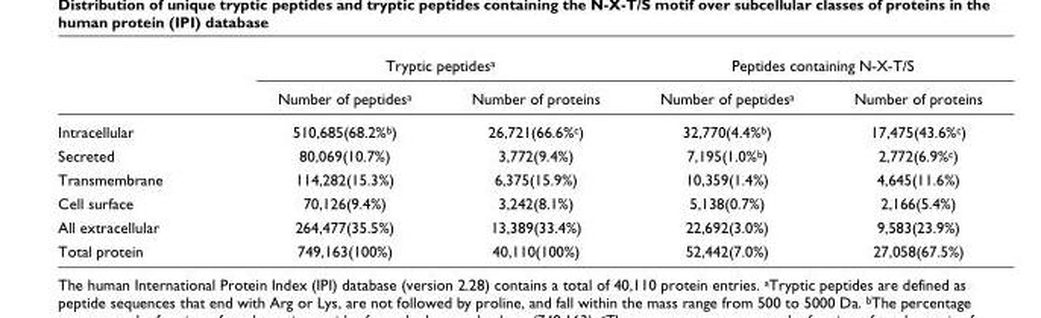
<table><thead><tr><td rowspan="2"></td><td colspan="2">Tryptic peptidesa</td><td colspan="2">Peptides containing N-X-T/S</td></tr><tr><td>Number of peptidesa</td><td>Number of proteins</td><td>Number of peptidesa</td><td>Number of proteins</td></tr></thead><tbody><tr><td>Intracellular</td><td>510,685(68.2%b)</td><td>26,721(66.6%c)</td><td>32,770(4.4%b)</td><td>17,475(43.6%c)</td></tr><tr><td>Secreted</td><td>80,069(10.7%)</td><td>3,772(9.4%)</td><td>7,195(1.0%b)</td><td>2,772(6.9%c)</td></tr><tr><td>Transmembrane</td><td>114,282(15.3%)</td><td>6,375(15.9%)</td><td>10,359(1.4%)</td><td>4,645(11.6%)</td></tr><tr><td>Cell surface</td><td>70,126(9.4%)</td><td>3,242(8.1%)</td><td>5,138(0.7%)</td><td>2,166(5.4%)</td></tr><tr><td>All extracellular</td><td>264,477(35.5%)</td><td>13,389(33.4%)</td><td>22,692(3.0%)</td><td>9,583(23.9%)</td></tr><tr><td>Total protein</td><td>749,163(100%)</td><td>40,110(100%)</td><td>52,442(7.0%)</td><td>27,058(67.5%)</td></tr></tbody></table>